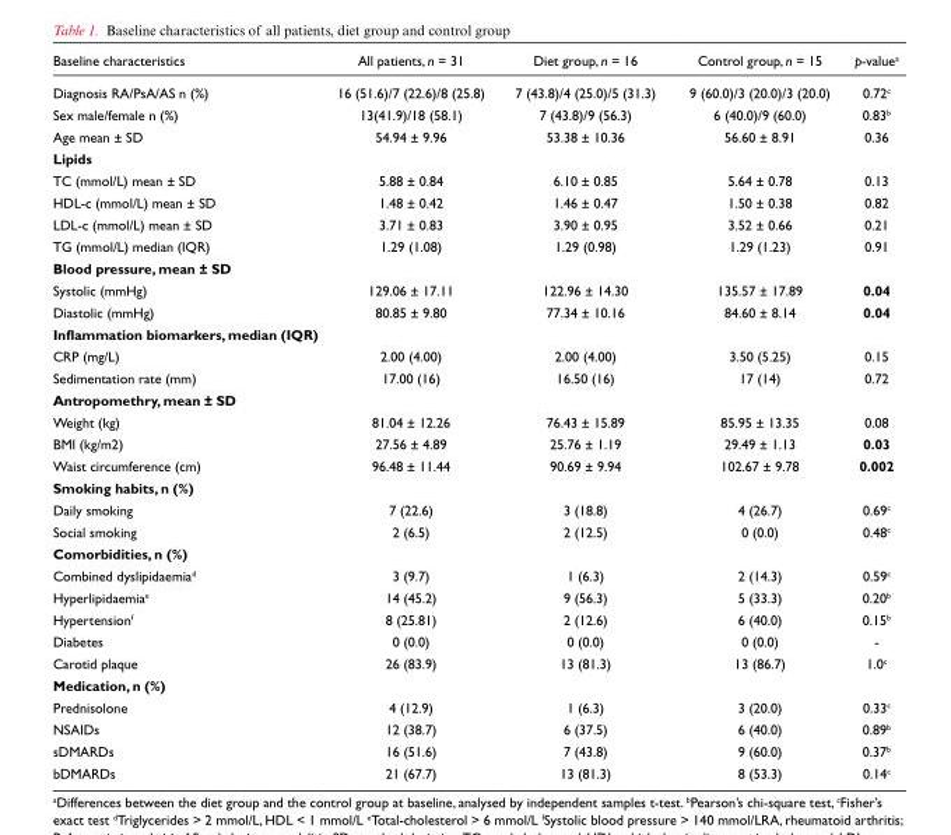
<table><thead><tr><td>Baseline characteristics</td><td>All patients, n = 31</td><td>Diet group, n = 16</td><td>Control group, n = 15</td><td>p-value<sup>a</sup></td></tr></thead><tbody><tr><td>Diagnosis RA/PsA/AS n (%)</td><td>16 (51.6)/7 (22.6)/8 (25.8)</td><td>7 (43.8)/4 (25.0)/5 (31.3)</td><td>9 (60.0)/3 (20.0)/3 (20.0)</td><td>0.72<sup>c</sup></td></tr><tr><td>Sex male/female n (%)</td><td>13(41.9)/18 (58.1)</td><td>7 (43.8)/9 (56.3)</td><td>6 (40.0)/9 (60.0)</td><td>0.83<sup>b</sup></td></tr><tr><td>Age mean ± SD</td><td>54.94 ± 9.96</td><td>53.38 ± 10.36</td><td>56.60 ± 8.91</td><td>0.36</td></tr><tr><td colspan="5">Lipids</td></tr><tr><td>TC (mmol/L) mean ± SD</td><td>5.88 ± 0.84</td><td>6.10 ± 0.85</td><td>5.64 ± 0.78</td><td>0.13</td></tr><tr><td>HDL-c (mmol/L) mean ± SD</td><td>1.48 ± 0.42</td><td>1.46 ± 0.47</td><td>1.50 ± 0.38</td><td>0.82</td></tr><tr><td>LDL-c (mmol/L) mean ± SD</td><td>3.71 ± 0.83</td><td>3.90 ± 0.95</td><td>3.52 ± 0.66</td><td>0.21</td></tr><tr><td>TG (mmol/L) median (IQR)</td><td>1.29 (1.08)</td><td>1.29 (0.98)</td><td>1.29 (1.23)</td><td>0.91</td></tr><tr><td colspan="5">Blood pressure, mean ± SD</td></tr><tr><td>Systolic (mmHg)</td><td>129.06 ± 17.11</td><td>122.96 ± 14.30</td><td>135.57 ± 17.89</td><td>0.04</td></tr><tr><td>Diastolic (mmHg)</td><td>80.85 ± 9.80</td><td>77.34 ± 10.16</td><td>84.60 ± 8.14</td><td>0.04</td></tr><tr><td colspan="5">Inflammation biomarkers, median (IQR)</td></tr><tr><td>CRP (mg/L)</td><td>2.00 (4.00)</td><td>2.00 (4.00)</td><td>3.50 (5.25)</td><td>0.15</td></tr><tr><td>Sedimentation rate (mm)</td><td>17.00 (16)</td><td>16.50 (16)</td><td>17 (14)</td><td>0.72</td></tr><tr><td colspan="5">Antropomethry, mean ± SD</td></tr><tr><td>Weight (kg)</td><td>81.04 ± 12.26</td><td>76.43 ± 15.89</td><td>85.95 ± 13.35</td><td>0.08</td></tr><tr><td>BMI (kg/m2)</td><td>27.56 ± 4.89</td><td>25.76 ± 1.19</td><td>29.49 ± 1.13</td><td>0.03</td></tr><tr><td>Waist circumference (cm)</td><td>96.48 ± 11.44</td><td>90.69 ± 9.94</td><td>102.67 ± 9.78</td><td>0.002</td></tr><tr><td colspan="5">Smoking habits, n (%)</td></tr><tr><td>Daily smoking</td><td>7 (22.6)</td><td>3 (18.8)</td><td>4 (26.7)</td><td>0.69<sup>c</sup></td></tr><tr><td>Social smoking</td><td>2 (6.5)</td><td>2 (12.5)</td><td>0 (0.0)</td><td>0.48<sup>c</sup></td></tr><tr><td colspan="5">Comorbidities, n (%)</td></tr><tr><td>Combined dyslipidaemia<sup>d</sup></td><td>3 (9.7)</td><td>1 (6.3)</td><td>2 (14.3)</td><td>0.59<sup>c</sup></td></tr><tr><td>Hyperlipidaemia<sup>e</sup></td><td>14 (45.2)</td><td>9 (56.3)</td><td>5 (33.3)</td><td>0.20<sup>b</sup></td></tr><tr><td>Hypertension<sup>f</sup></td><td>8 (25.81)</td><td>2 (12.6)</td><td>6 (40.0)</td><td>0.15<sup>b</sup></td></tr><tr><td>Diabetes</td><td>0 (0.0)</td><td>0 (0.0)</td><td>0 (0.0)</td><td>-</td></tr><tr><td>Carotid plaque</td><td>26 (83.9)</td><td>13 (81.3)</td><td>13 (86.7)</td><td>1.0<sup>c</sup></td></tr><tr><td colspan="5">Medication, n (%)</td></tr><tr><td>Prednisolone</td><td>4 (12.9)</td><td>1 (6.3)</td><td>3 (20.0)</td><td>0.33<sup>c</sup></td></tr><tr><td>NSAIDs</td><td>12 (38.7)</td><td>6 (37.5)</td><td>6 (40.0)</td><td>0.89<sup>b</sup></td></tr><tr><td>sDMARDs</td><td>16 (51.6)</td><td>7 (43.8)</td><td>9 (60.0)</td><td>0.37<sup>b</sup></td></tr><tr><td>bDMARDs</td><td>21 (67.7)</td><td>13 (81.3)</td><td>8 (53.3)</td><td>0.14<sup>c</sup></td></tr></tbody></table>